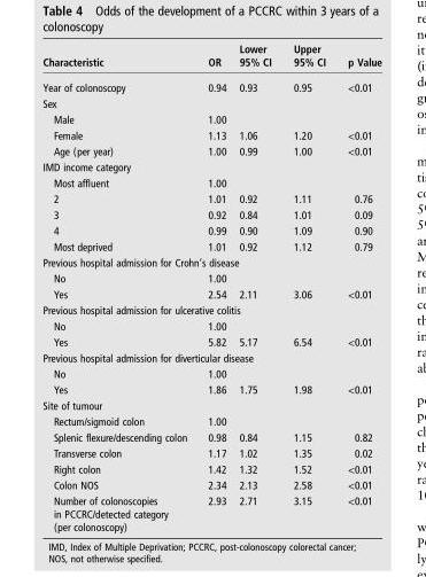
<table><thead><tr><td>Characteristic</td><td>OR</td><td>Lower 95% CI</td><td>Upper 95% CI</td><td>p Value</td></tr></thead><tbody><tr><td>Year of colonoscopy</td><td>0.94</td><td>0.93</td><td>0.95</td><td>&lt;0.01</td></tr><tr><td colspan="5">Sex</td></tr><tr><td>Male</td><td>1.00</td><td></td><td></td><td></td></tr><tr><td>Female</td><td>1.13</td><td>1.06</td><td>1.20</td><td>&lt;0.01</td></tr><tr><td>Age (per year)</td><td>1.00</td><td>0.99</td><td>1.00</td><td>&lt;0.01</td></tr><tr><td colspan="5">IMD income category</td></tr><tr><td>Most affluent</td><td>1.00</td><td></td><td></td><td></td></tr><tr><td>2</td><td>1.01</td><td>0.92</td><td>1.11</td><td>0.76</td></tr><tr><td>3</td><td>0.92</td><td>0.84</td><td>1.01</td><td>0.09</td></tr><tr><td>4</td><td>0.99</td><td>0.90</td><td>1.09</td><td>0.90</td></tr><tr><td>Most deprived</td><td>1.01</td><td>0.92</td><td>1.12</td><td>0.79</td></tr><tr><td colspan="5">Previous hospital admission for Crohn’s disease</td></tr><tr><td>No</td><td>1.00</td><td></td><td></td><td></td></tr><tr><td>Yes</td><td>2.54</td><td>2.11</td><td>3.06</td><td>&lt;0.01</td></tr><tr><td colspan="5">Previous hospital admission for ulcerative colitis</td></tr><tr><td>No</td><td>1.00</td><td></td><td></td><td></td></tr><tr><td>Yes</td><td>5.82</td><td>5.17</td><td>6.54</td><td>&lt;0.01</td></tr><tr><td colspan="5">Previous hospital admission for diverticular disease</td></tr><tr><td>No</td><td>1.00</td><td></td><td></td><td></td></tr><tr><td>Yes</td><td>1.86</td><td>1.75</td><td>1.98</td><td>&lt;0.01</td></tr><tr><td colspan="5">Site of tumour</td></tr><tr><td>Rectum/sigmoid colon</td><td>1.00</td><td></td><td></td><td></td></tr><tr><td>Splenic flexure/descending colon</td><td>0.98</td><td>0.84</td><td>1.15</td><td>0.82</td></tr><tr><td>Transverse colon</td><td>1.17</td><td>1.02</td><td>1.35</td><td>0.02</td></tr><tr><td>Right colon</td><td>1.42</td><td>1.32</td><td>1.52</td><td>&lt;0.01</td></tr><tr><td>Colon NOS</td><td>2.34</td><td>2.13</td><td>2.58</td><td>&lt;0.01</td></tr><tr><td>Number of colonoscopies in PCCRC/detected category (per colonoscopy)</td><td>2.93</td><td>2.71</td><td>3.15</td><td>&lt;0.01</td></tr></tbody></table>